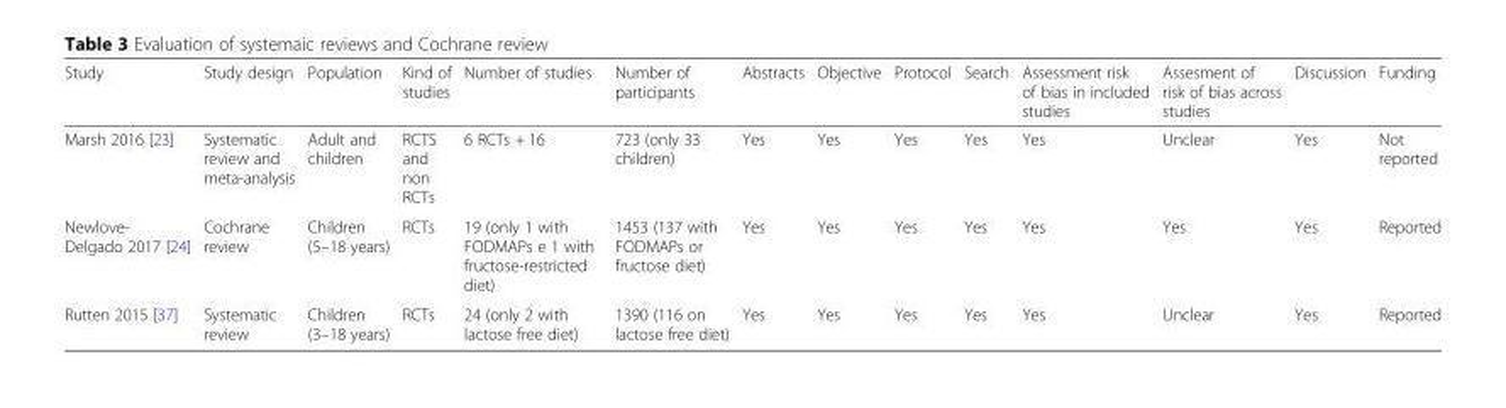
<table><thead><tr><td>Study</td><td>Study design</td><td>Population</td><td>Kind of studies</td><td>Number of studies</td><td>Number of participants</td><td>Abstracts</td><td>Objective</td><td>Protocol</td><td>Search</td><td>Assessment risk of bias in included studies</td><td>Assesment of risk of bias across studies</td><td>Discussion</td><td>Funding</td></tr></thead><tbody><tr><td>Marsh 2016 [23]</td><td>Systematic review and meta-analysis</td><td>Adult and children</td><td>RCTS and non RCTs</td><td>6 RCTs + 16</td><td>723 (only 33 children)</td><td>Yes</td><td>Yes</td><td>Yes</td><td>Yes</td><td>Yes</td><td>Unclear</td><td>Yes</td><td>Not reported</td></tr><tr><td>Newlove- Delgado 2017 [24]</td><td>Cochrane review</td><td>Children (5–18 years)</td><td>RCTs</td><td>19 (only 1 with FODMAPs e 1 with fructose-restricted diet)</td><td>1453 (137 with FODMAPs or fructose diet)</td><td>Yes</td><td>Yes</td><td>Yes</td><td>Yes</td><td>Yes</td><td>Yes</td><td>Yes</td><td>Reported</td></tr><tr><td>Rutten 2015 [37]</td><td>Systematic review</td><td>Children (3–18 years)</td><td>RCTs</td><td>24 (only 2 with lactose free diet)</td><td>1390 (116 on lactose free diet)</td><td>Yes</td><td>Yes</td><td>Yes</td><td>Yes</td><td>Yes</td><td>Unclear</td><td>Yes</td><td>Reported</td></tr></tbody></table>